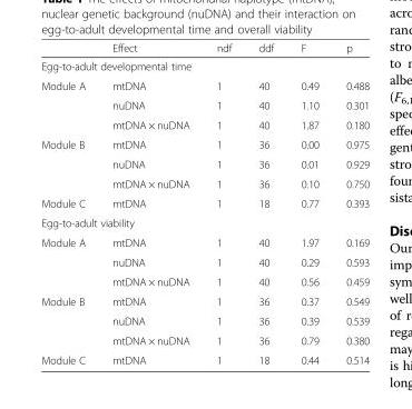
<table><thead><tr><td></td><td>Effect</td><td>ndf</td><td>ddf</td><td>F</td><td>p</td></tr></thead><tbody><tr><td colspan="6">Egg-to-adult developmental time</td></tr><tr><td rowspan="3">Module A</td><td>mtDNA</td><td>1</td><td>40</td><td>0.49</td><td>0.488</td></tr><tr><td>nuDNA</td><td>1</td><td>40</td><td>1.10</td><td>0.301</td></tr><tr><td>mtDNA × nuDNA</td><td>1</td><td>40</td><td>1.87</td><td>0.180</td></tr><tr><td rowspan="3">Module B</td><td>mtDNA</td><td>1</td><td>36</td><td>0.00</td><td>0.975</td></tr><tr><td>nuDNA</td><td>1</td><td>36</td><td>0.01</td><td>0.929</td></tr><tr><td>mtDNA × nuDNA</td><td>1</td><td>36</td><td>0.10</td><td>0.750</td></tr><tr><td>Module C</td><td>mtDNA</td><td>1</td><td>18</td><td>0.77</td><td>0.393</td></tr><tr><td colspan="6">Egg-to-adult viability</td></tr><tr><td rowspan="3">Module A</td><td>mtDNA</td><td>1</td><td>40</td><td>1.97</td><td>0.169</td></tr><tr><td>nuDNA</td><td>1</td><td>40</td><td>0.29</td><td>0.593</td></tr><tr><td>mtDNA × nuDNA</td><td>1</td><td>40</td><td>0.56</td><td>0.459</td></tr><tr><td rowspan="3">Module B</td><td>mtDNA</td><td>1</td><td>36</td><td>0.37</td><td>0.549</td></tr><tr><td>nuDNA</td><td>1</td><td>36</td><td>0.39</td><td>0.539</td></tr><tr><td>mtDNA × nuDNA</td><td>1</td><td>36</td><td>0.79</td><td>0.380</td></tr><tr><td>Module C</td><td>mtDNA</td><td>1</td><td>18</td><td>0.44</td><td>0.514</td></tr></tbody></table>